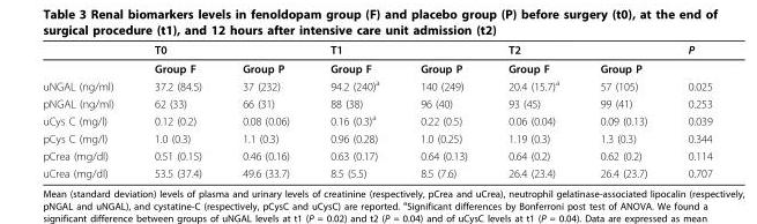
<table><thead><tr><td rowspan="2"></td><td colspan="2">T0</td><td colspan="2">T1</td><td colspan="2">T2</td><td rowspan="2">P</td></tr><tr><td>Group F</td><td>Group P</td><td>Group F</td><td>Group P</td><td>Group F</td><td>Group P</td></tr></thead><tbody><tr><td>uNGAL (ng/ml)</td><td>37.2 (84.5)</td><td>37 (232)</td><td>94.2 (240)<sup>a</sup></td><td>140 (249)</td><td>20.4 (15.7)<sup>a</sup></td><td>57 (105)</td><td>0.025</td></tr><tr><td>pNGAL (ng/ml)</td><td>62 (33)</td><td>66 (31)</td><td>88 (38)</td><td>96 (40)</td><td>93 (45)</td><td>99 (41)</td><td>0.253</td></tr><tr><td>uCys C (mg/l)</td><td>0.12 (0.2)</td><td>0.08 (0.06)</td><td>0.16 (0.3)<sup>a</sup></td><td>0.22 (0.5)</td><td>0.06 (0.04)</td><td>0.09 (0.13)</td><td>0.039</td></tr><tr><td>pCys C (mg/l)</td><td>1.0 (0.3)</td><td>1.1 (0.3)</td><td>0.96 (0.28)</td><td>1.0 (0.25)</td><td>1.19 (0.3)</td><td>1.3 (0.3)</td><td>0.344</td></tr><tr><td>pCrea (mg/dl)</td><td>0.51 (0.15)</td><td>0.46 (0.16)</td><td>0.63 (0.17)</td><td>0.64 (0.13)</td><td>0.64 (0.2)</td><td>0.62 (0.2)</td><td>0.114</td></tr><tr><td>uCrea (mg/dl)</td><td>53.5 (37.4)</td><td>49.6 (33.7)</td><td>8.5 (5.5)</td><td>8.5 (7.6)</td><td>26.4 (23.4)</td><td>26.4 (23.7)</td><td>0.707</td></tr></tbody></table>